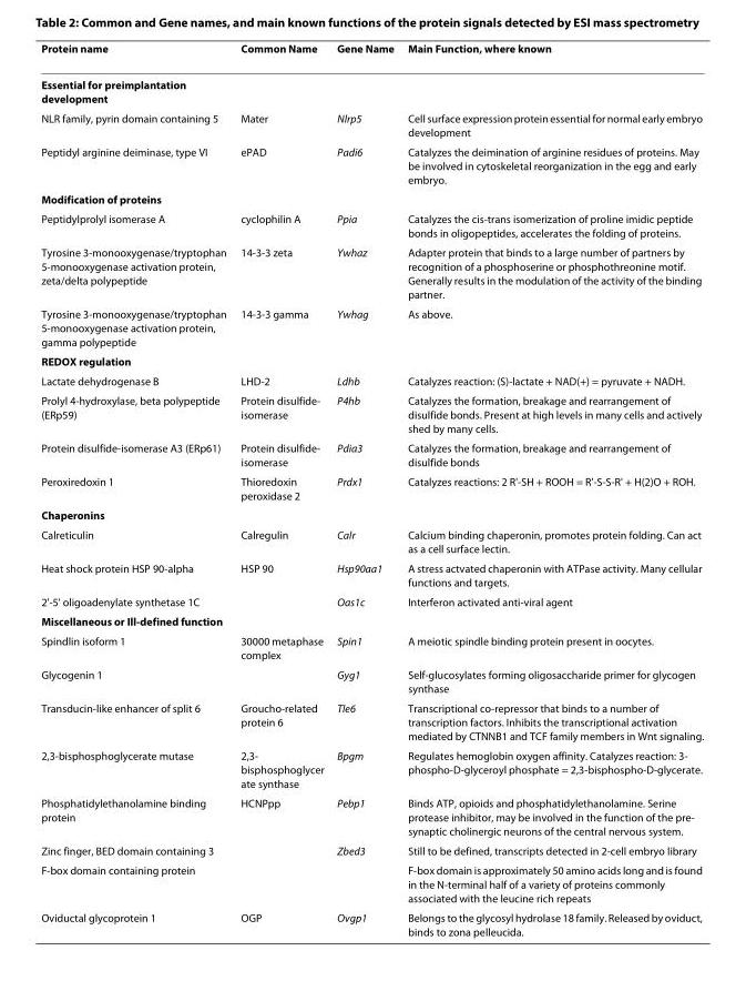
<table><thead><tr><td>Protein name</td><td>Common Name</td><td>Gene Name</td><td>Main Function, where known</td></tr></thead><tbody><tr><td colspan="4">Essential for preimplantation development</td></tr><tr><td>NLR family, pyrin domain containing 5</td><td>Mater</td><td>Nlrp5</td><td>Cell surface expression protein essential for normal early embryo development</td></tr><tr><td>Peptidyl arginine deiminase, type VI</td><td>ePAD</td><td>Padi6</td><td>Catalyzes the deimination of arginine residues of proteins. May be involved in cytoskeletal reorganization in the egg and early embryo.</td></tr><tr><td colspan="4">Modification of proteins</td></tr><tr><td>Peptidylprolyl isomerase A</td><td>cyclophilin A</td><td>Ppia</td><td>Catalyzes the cis-trans isomerization of proline imidic peptide bonds in oligopeptides, accelerates the folding of proteins.</td></tr><tr><td>Tyrosine 3-monooxygenase/tryptophan 5-monooxygenase activation protein, zeta/delta polypeptide</td><td>14-3-3 zeta</td><td>Ywhaz</td><td>Adapter protein that binds to a large number of partners by recognition of a phosphoserine or phosphothreonine motif. Generally results in the modulation of the activity of the binding partner.</td></tr><tr><td>Tyrosine 3-monooxygenase/tryptophan 5-monooxygenase activation protein, gamma polypeptide</td><td>14-3-3 gamma</td><td>Ywhag</td><td>As above.</td></tr><tr><td colspan="4">REDOX regulation</td></tr><tr><td>Lactate dehydrogenase B</td><td>LHD-2</td><td>Ldhb</td><td>Catalyzes reaction: (S)-lactate + NAD(+) = pyruvate + NADH.</td></tr><tr><td>Prolyl 4-hydroxylase, beta polypeptide (ERp59)</td><td>Protein disulfide- isomerase</td><td>P4hb</td><td>Catalyzes the formation, breakage and rearrangement of disulfide bonds. Present at high levels in many cells and actively shed by many cells.</td></tr><tr><td>Protein disulfide-isomerase A3 (ERp61)</td><td>Protein disulfide- isomerase</td><td>Pdia3</td><td>Catalyzes the formation, breakage and rearrangement of disulfide bonds</td></tr><tr><td>Peroxiredoxin 1</td><td>Thioredoxin peroxidase 2</td><td>Prdx1</td><td>Catalyzes reactions: 2 R&#x27;-SH + ROOH = R&#x27;-S-S-R&#x27; + H(2)O + ROH.</td></tr><tr><td colspan="4">Chaperonins</td></tr><tr><td>Calreticulin</td><td>Calregulin</td><td>Calr</td><td>Calcium binding chaperonin, promotes protein folding. Can act as a cell surface lectin.</td></tr><tr><td>Heat shock protein HSP 90-alpha</td><td>HSP 90</td><td>Hsp90aa1</td><td>A stress actvated chaperonin with ATPase activity. Many cellular functions and targets.</td></tr><tr><td>2&#x27;-5&#x27; oligoadenylate synthetase 1C</td><td></td><td>Oas1c</td><td>Interferon activated anti-viral agent</td></tr><tr><td colspan="4">Miscellaneous or Ill-defined function</td></tr><tr><td>Spindlin isoform 1</td><td>30000 metaphase complex</td><td>Spin1</td><td>A meiotic spindle binding protein present in oocytes.</td></tr><tr><td>Glycogenin 1</td><td></td><td>Gyg1</td><td>Self-glucosylates forming oligosaccharide primer for glycogen synthase</td></tr><tr><td>Transducin-like enhancer of split 6</td><td>Groucho-related protein 6</td><td>Tle6</td><td>Transcriptional co-repressor that binds to a number of transcription factors. Inhibits the transcriptional activation mediated by CTNNB1 and TCF family members in Wnt signaling.</td></tr><tr><td>2,3-bisphosphoglycerate mutase</td><td>2,3- bisphosphoglycer ate synthase</td><td>Bpgm</td><td>Regulates hemoglobin oxygen affinity. Catalyzes reaction: 3- phospho-D-glyceroyl phosphate = 2,3-bisphospho-D-glycerate.</td></tr><tr><td>Phosphatidylethanolamine binding protein</td><td>HCNPpp</td><td>Pebp1</td><td>Binds ATP, opioids and phosphatidylethanolamine. Serine protease inhibitor, may be involved in the function of the pre- synaptic cholinergic neurons of the central nervous system.</td></tr><tr><td>Zinc finger, BED domain containing 3</td><td></td><td>Zbed3</td><td>Still to be defined, transcripts detected in 2-cell embryo library</td></tr><tr><td>F-box domain containing protein</td><td></td><td></td><td>F-box domain is approximately 50 amino acids long and is found in the N-terminal half of a variety of proteins commonly associated with the leucine rich repeats</td></tr><tr><td>Oviductal glycoprotein 1</td><td>OGP</td><td>Ovgp1</td><td>Belongs to the glycosyl hydrolase 18 family. Released by oviduct, binds to zona pelleucida.</td></tr></tbody></table>